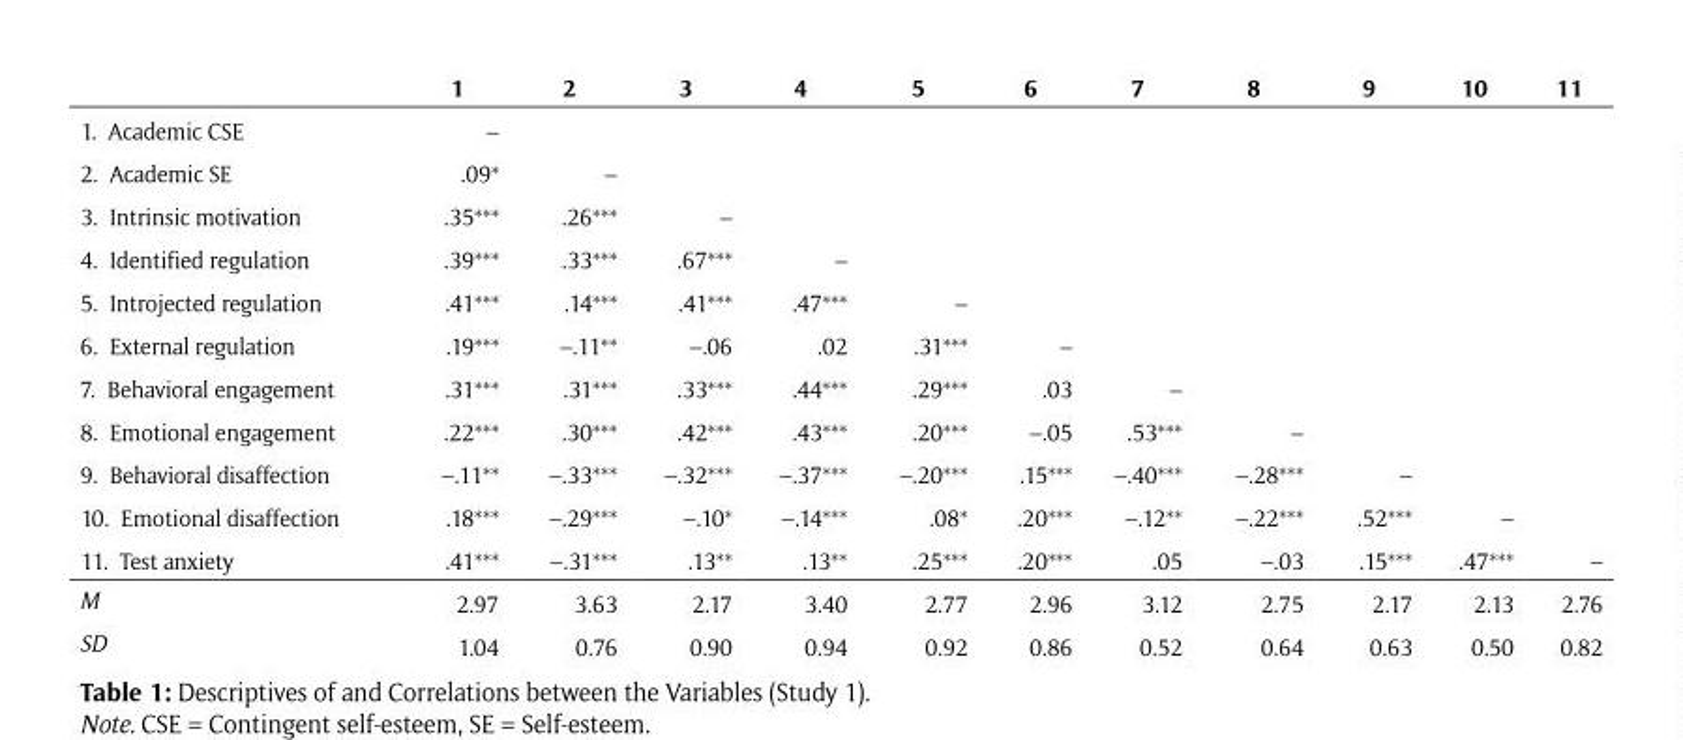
<table><thead><tr><td></td><td>1</td><td>2</td><td>3</td><td>4</td><td>5</td><td>6</td><td>7</td><td>8</td><td>9</td><td>10</td><td>11</td></tr></thead><tbody><tr><td>1. Academic CSE</td><td>–</td><td></td><td></td><td></td><td></td><td></td><td></td><td></td><td></td><td></td><td></td></tr><tr><td>2. Academic SE</td><td>.09*</td><td>–</td><td></td><td></td><td></td><td></td><td></td><td></td><td></td><td></td><td></td></tr><tr><td>3. Intrinsic motivation</td><td>.35***</td><td>.26***</td><td>–</td><td></td><td></td><td></td><td></td><td></td><td></td><td></td><td></td></tr><tr><td>4. Identified regulation</td><td>.39***</td><td>.33***</td><td>.67***</td><td>–</td><td></td><td></td><td></td><td></td><td></td><td></td><td></td></tr><tr><td>5. Introjected regulation</td><td>.41***</td><td>.14***</td><td>.41***</td><td>.47***</td><td>–</td><td></td><td></td><td></td><td></td><td></td><td></td></tr><tr><td>6. External regulation</td><td>.19***</td><td>–.11**</td><td>–.06</td><td>.02</td><td>.31***</td><td>–</td><td></td><td></td><td></td><td></td><td></td></tr><tr><td>7. Behavioral engagement</td><td>.31***</td><td>.31***</td><td>.33***</td><td>.44***</td><td>.29***</td><td>.03</td><td>–</td><td></td><td></td><td></td><td></td></tr><tr><td>8. Emotional engagement</td><td>.22***</td><td>.30***</td><td>.42***</td><td>.43***</td><td>.20***</td><td>–.05</td><td>.53***</td><td>–</td><td></td><td></td><td></td></tr><tr><td>9. Behavioral disaffection</td><td>–.11**</td><td>–.33***</td><td>–.32***</td><td>–.37***</td><td>–.20***</td><td>.15***</td><td>–.40***</td><td>–.28***</td><td>–</td><td></td><td></td></tr><tr><td>10. Emotional disaffection</td><td>.18***</td><td>–.29***</td><td>–.10*</td><td>–.14***</td><td>.08*</td><td>.20***</td><td>–.12**</td><td>–.22***</td><td>.52***</td><td>–</td><td></td></tr><tr><td>11. Test anxiety</td><td>.41***</td><td>–.31***</td><td>.13**</td><td>.13**</td><td>.25***</td><td>.20***</td><td>.05</td><td>–.03</td><td>.15***</td><td>.47***</td><td>–</td></tr><tr><td>M</td><td>2.97</td><td>3.63</td><td>2.17</td><td>3.40</td><td>2.77</td><td>2.96</td><td>3.12</td><td>2.75</td><td>2.17</td><td>2.13</td><td>2.76</td></tr><tr><td>SD</td><td>1.04</td><td>0.76</td><td>0.90</td><td>0.94</td><td>0.92</td><td>0.86</td><td>0.52</td><td>0.64</td><td>0.63</td><td>0.50</td><td>0.82</td></tr></tbody></table>